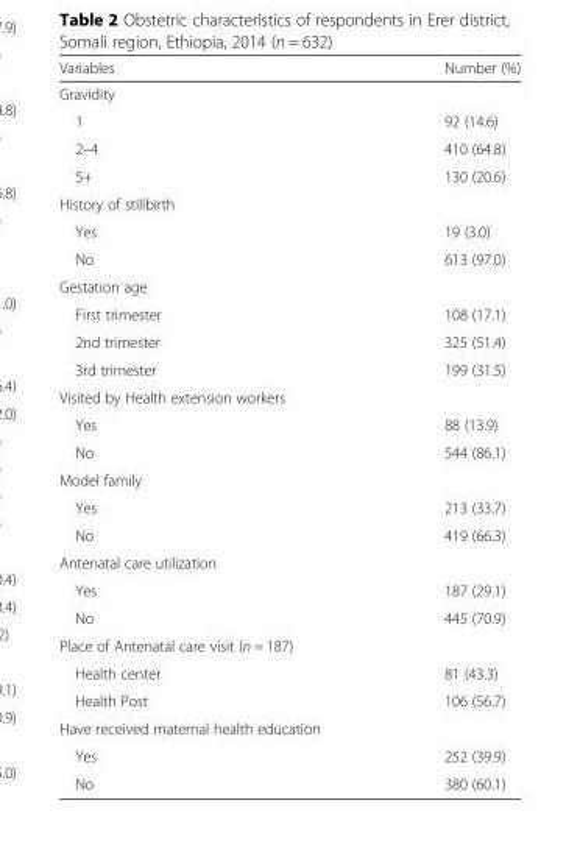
<table><thead><tr><td>Variables</td><td>Number (%)</td></tr></thead><tbody><tr><td colspan="2">Gravidity</td></tr><tr><td>1</td><td>92 (14.6)</td></tr><tr><td>2–4</td><td>410 (64.8)</td></tr><tr><td>5+</td><td>130 (20.6)</td></tr><tr><td colspan="2">History of stillbirth</td></tr><tr><td>Yes</td><td>19 (3.0)</td></tr><tr><td>No</td><td>613 (97.0)</td></tr><tr><td colspan="2">Gestation age</td></tr><tr><td>First trimester</td><td>108 (17.1)</td></tr><tr><td>2nd trimester</td><td>325 (51.4)</td></tr><tr><td>3rd trimester</td><td>199 (31.5)</td></tr><tr><td colspan="2">Visited by Health extension workers</td></tr><tr><td>Yes</td><td>88 (13.9)</td></tr><tr><td>No</td><td>544 (86.1)</td></tr><tr><td colspan="2">Model family</td></tr><tr><td>Yes</td><td>213 (33.7)</td></tr><tr><td>No</td><td>419 (66.3)</td></tr><tr><td colspan="2">Antenatal care utilization</td></tr><tr><td>Yes</td><td>187 (29.1)</td></tr><tr><td>No</td><td>445 (70.9)</td></tr><tr><td colspan="2">Place of Antenatal care visit (n = 187)</td></tr><tr><td>Health center</td><td>81 (43.3)</td></tr><tr><td>Health Post</td><td>106 (56.7)</td></tr><tr><td colspan="2">Have received maternal health education</td></tr><tr><td>Yes</td><td>252 (39.9)</td></tr><tr><td>No</td><td>380 (60.1)</td></tr></tbody></table>